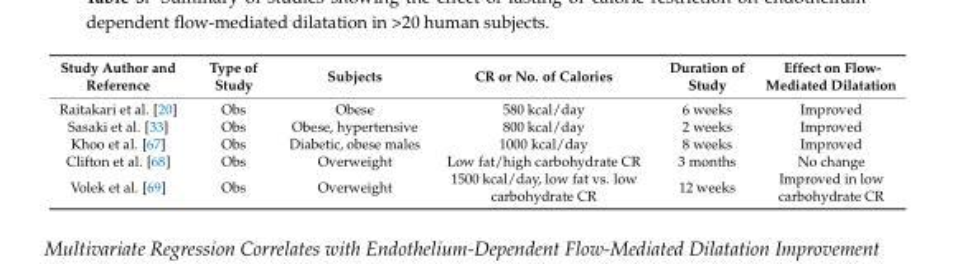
<table><thead><tr><td>Study Author and Reference</td><td>Type of Study</td><td>Subjects</td><td>CR or No. of Calories</td><td>Duration of Study</td><td>Effect on Flow- Mediated Dilatation</td></tr></thead><tbody><tr><td>Raitakari et al. [20]</td><td>Obs</td><td>Obese</td><td>580 kcal/day</td><td>6 weeks</td><td>Improved</td></tr><tr><td>Sasaki et al. [33]</td><td>Obs</td><td>Obese, hypertensive</td><td>800 kcal/day</td><td>2 weeks</td><td>Improved</td></tr><tr><td>Khoo et al. [67]</td><td>Obs</td><td>Diabetic, obese males</td><td>1000 kcal/day</td><td>8 weeks</td><td>Improved</td></tr><tr><td>Clifton et al. [68]</td><td>Obs</td><td>Overweight</td><td>Low fat/high carbohydrate CR</td><td>3 months</td><td>No change</td></tr><tr><td>Volek et al. [69]</td><td>Obs</td><td>Overweight</td><td>1500 kcal/day, low fat vs. low carbohydrate CR</td><td>12 weeks</td><td>Improved in low carbohydrate CR</td></tr></tbody></table>